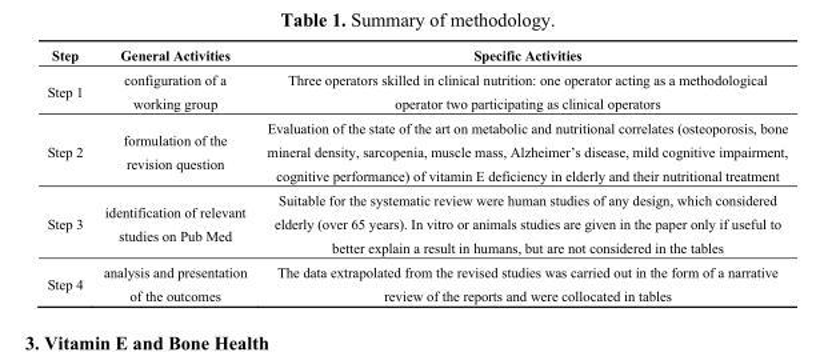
<table><thead><tr><td>Step</td><td>General Activities</td><td>Specific Activities</td></tr></thead><tbody><tr><td>Step 1</td><td>configuration of a working group</td><td>Three operators skilled in clinical nutrition: one operator acting as a methodological operator two participating as clinical operators</td></tr><tr><td>Step 2</td><td>formulation of the revision question</td><td>Evaluation of the state of the art on metabolic and nutritional correlates (osteoporosis, bone mineral density, sarcopenia, muscle mass, Alzheimerʼs disease, mild cognitive impairment, cognitive performance) of vitamin E deficiency in elderly and their nutritional treatment</td></tr><tr><td>Step 3</td><td>identification of relevant studies on Pub Med</td><td>Suitable for the systematic review were human studies of any design, which considered elderly (over 65 years). In vitro or animals studies are given in the paper only if useful to better explain a result in humans, but are not considered in the tables</td></tr><tr><td>Step 4</td><td>analysis and presentation of the outcomes</td><td>The data extrapolated from the revised studies was carried out in the form of a narrative review of the reports and were collocated in tables</td></tr></tbody></table>